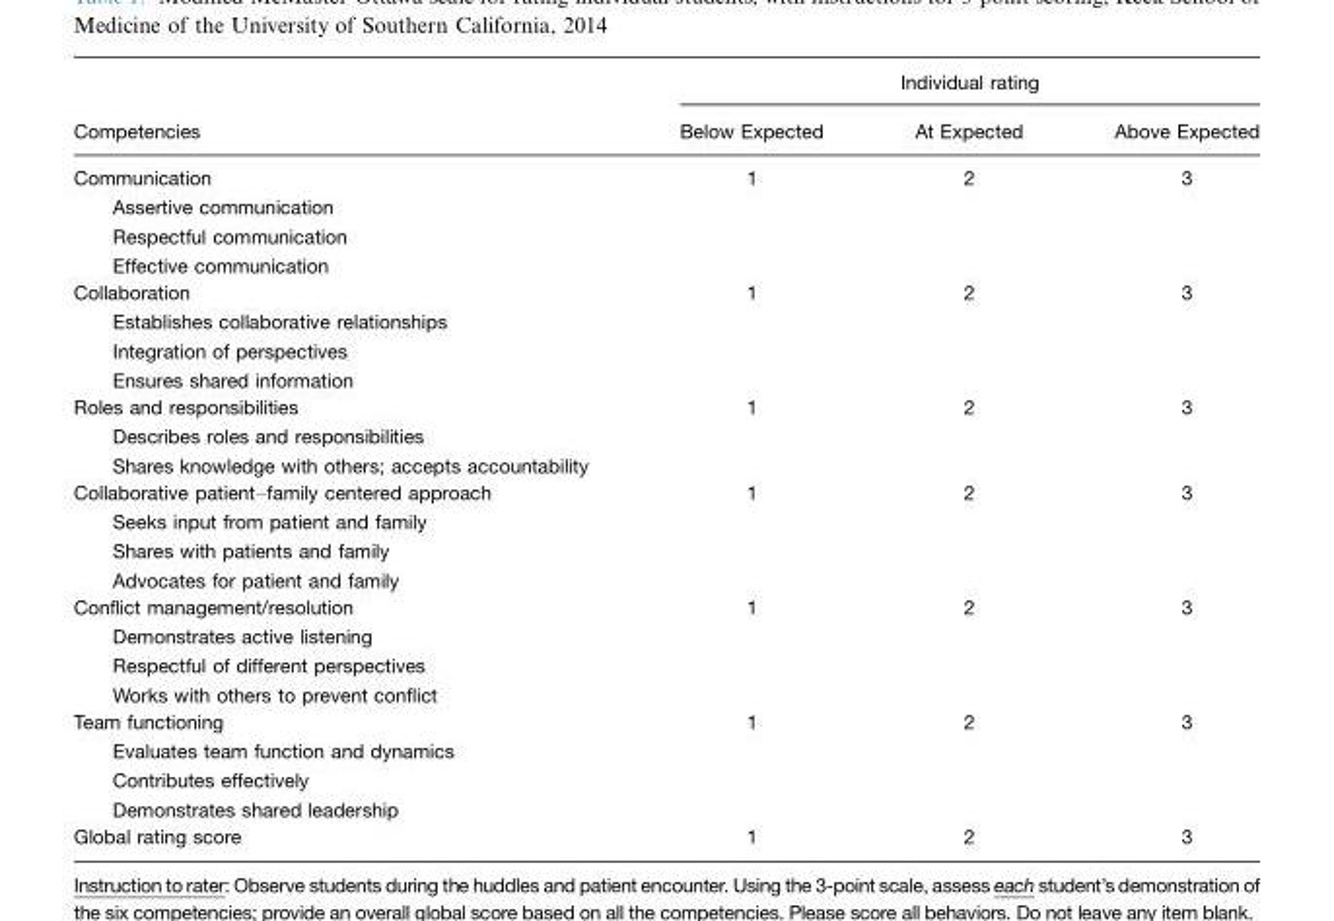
<table><thead><tr><td rowspan="2">Competencies</td><td colspan="3">Individual rating</td></tr><tr><td>Below Expected</td><td>At Expected</td><td>Above Expected</td></tr></thead><tbody><tr><td>Communication Assertive communication Respectful communication Effective communication</td><td>1</td><td>2</td><td>3</td></tr><tr><td>Collaboration Establishes collaborative relationships Integration of perspectives Ensures shared information</td><td>1</td><td>2</td><td>3</td></tr><tr><td>Roles and responsibilities Describes roles and responsibilities Shares knowledge with others; accepts accountability</td><td>1</td><td>2</td><td>3</td></tr><tr><td>Collaborative patient–family centered approach Seeks input from patient and family Shares with patients and family Advocates for patient and family</td><td>1</td><td>2</td><td>3</td></tr><tr><td>Conflict management/resolution Demonstrates active listening Respectful of different perspectives Works with others to prevent conflict</td><td>1</td><td>2</td><td>3</td></tr><tr><td>Team functioning Evaluates team function and dynamics Contributes effectively Demonstrates shared leadership</td><td>1</td><td>2</td><td>3</td></tr><tr><td>Global rating score</td><td>1</td><td>2</td><td>3</td></tr></tbody></table>